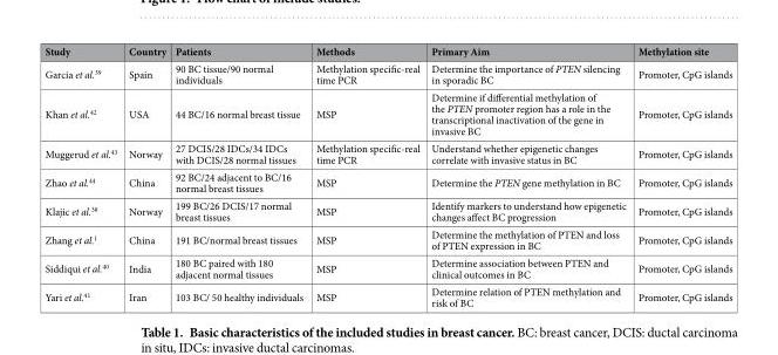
<table><thead><tr><td>Study</td><td>Country</td><td>Patients</td><td>Methods</td><td>Primary Aim</td><td>Methylation site</td></tr></thead><tbody><tr><td>Garcia et al.<sup>39</sup></td><td>Spain</td><td>90 BC tissue/90 normal individuals</td><td>Methylation specific-real time PCR</td><td>Determine the importance of PTEN silencing in sporadic BC</td><td>Promoter, CpG islands</td></tr><tr><td>Khan et al.<sup>42</sup></td><td>USA</td><td>44 BC/16 normal breast tissue</td><td>MSP</td><td>Determine if differential methylation of the PTEN promoter region has a role in the transcriptional inactivation of the gene in invasive BC</td><td>Promoter, CpG islands</td></tr><tr><td>Muggerud et al.<sup>43</sup></td><td>Norway</td><td>27 DCIS/28 IDCs/34 IDCs with DCIS/28 normal tissues</td><td>Methylation specific-real time PCR</td><td>Understand whether epigenetic changes correlate with invasive status in BC</td><td>Promoter, CpG islands</td></tr><tr><td>Zhao et al.<sup>44</sup></td><td>China</td><td>92 BC/24 adjacent to BC/16 normal breast tissues</td><td>MSP</td><td>Determine the PTEN gene methylation in BC</td><td>Promoter, CpG islands</td></tr><tr><td>Klajic et al.<sup>38</sup></td><td>Norway</td><td>199 BC/26 DCIS/17 normal breast tissues</td><td>MSP</td><td>Identify markers to understand how epigenetic changes affect BC progression</td><td>Promoter, CpG islands</td></tr><tr><td>Zhang et al.<sup>1</sup></td><td>China</td><td>191 BC/normal breast tissues</td><td>MSP</td><td>Determine the methylation of PTEN and loss of PTEN expression in BC</td><td>Promoter, CpG islands</td></tr><tr><td>Siddiqui et al.<sup>40</sup></td><td>India</td><td>180 BC paired with 180 adjacent normal tissues</td><td>MSP</td><td>Determine association between PTEN and clinical outcomes in BC</td><td>Promoter, CpG islands</td></tr><tr><td>Yari et al.<sup>41</sup></td><td>Iran</td><td>103 BC/ 50 healthy individuals</td><td>MSP</td><td>Determine relation of PTEN methylation and risk of BC</td><td>Promoter, CpG islands</td></tr></tbody></table>